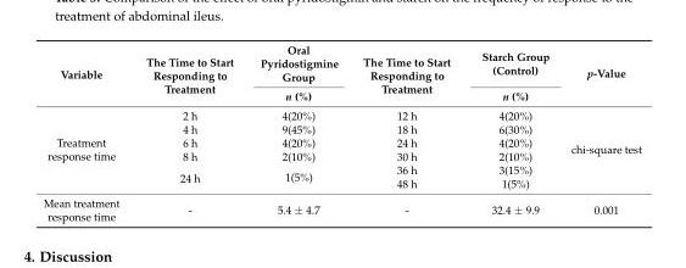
<table><thead><tr><td rowspan="2">Variable</td><td rowspan="2">The Time to Start Responding to Treatment</td><td rowspan="2">Oral Pyridostigmine Group n (%)</td><td rowspan="2">The Time to Start Responding to Treatment</td><td rowspan="2">Starch Group (Control) n (%)</td><td rowspan="2">p-Value</td></tr><tr></tr></thead><tbody><tr><td rowspan="6">Treatment response time</td><td>2 h</td><td>4(20%)</td><td>12 h</td><td>4(20%)</td><td rowspan="6">chi-square test</td></tr><tr><td>4 h</td><td>9(45%)</td><td>18 h</td><td>6(30%)</td></tr><tr><td>6 h</td><td>4(20%)</td><td>24 h</td><td>4(20%)</td></tr><tr><td>8 h</td><td>2(10%)</td><td>30 h</td><td>2(10%)</td></tr><tr><td rowspan="2">24 h</td><td rowspan="2">1(5%)</td><td>36 h</td><td>3(15%)</td></tr><tr><td>48 h</td><td>1(5%)</td></tr><tr><td>Mean treatment response time</td><td>-</td><td>5.4 ± 4.7</td><td>-</td><td>32.4 ± 9.9</td><td>0.001</td></tr></tbody></table>